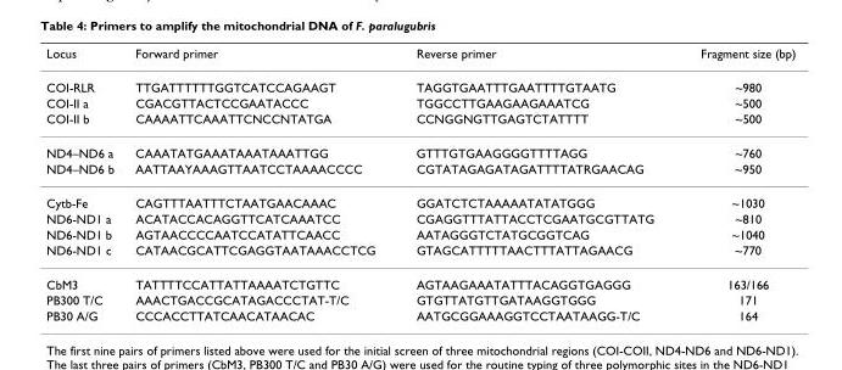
<table><thead><tr><td>Locus</td><td>Forward primer</td><td>Reverse primer</td><td>Fragment size (bp)</td></tr></thead><tbody><tr><td>COI-RLR</td><td>TTGATTTTTTGGTCATCCAGAAGT</td><td>TAGGTGAATTTGAATTTTGTAATG</td><td>~980</td></tr><tr><td>COI-II a</td><td>CGACGTTACTCCGAATACCC</td><td>TGGCCTTGAAGAAGAAATCG</td><td>~500</td></tr><tr><td>COI-II b</td><td>CAAAATTCAAATTCNCCNTATGA</td><td>CCNGGNGTTGAGTCTATTTT</td><td>~500</td></tr><tr><td>ND4–ND6 a</td><td>CAAATATGAAATAAATAAATTGG</td><td>GTTTGTGAAGGGGTTTTAGG</td><td>~760</td></tr><tr><td>ND4–ND6 b</td><td>AATTAAYAAAGTTAATCCTAAAACCCC</td><td>CGTATAGAGATAGATTTTATRGAACAG</td><td>~950</td></tr><tr><td>Cytb-Fe</td><td>CAGTTTAATTTCTAATGAACAAAC</td><td>GGATCTCTAAAAATATATGGG</td><td>~1030</td></tr><tr><td>ND6-ND1 a</td><td>ACATACCACAGGTTCATCAAATCC</td><td>CGAGGTTTATTACCTCGAATGCGTTATG</td><td>~810</td></tr><tr><td>ND6-ND1 b</td><td>AGTAACCCCAATCCATATTCAACC</td><td>AATAGGGTCTATGCGGTCAG</td><td>~1040</td></tr><tr><td>ND6-ND1 c</td><td>CATAACGCATTCGAGGTAATAAACCTCG</td><td>GTAGCATTTTTAACTTTATTAGAACG</td><td>~770</td></tr><tr><td>CbM3</td><td>TATTTTCCATTATTAAAATCTGTTC</td><td>AGTAAGAAATATTTACAGGTGAGGG</td><td>163/166</td></tr><tr><td>PB300 T/C</td><td>AAACTGACCGCATAGACCCTAT-T/C</td><td>GTGTTATGTTGATAAGGTGGG</td><td>171</td></tr><tr><td>PB30 A/G</td><td>CCCACCTTATCAACATAACAC</td><td>AATGCGGAAAGGTCCTAATAAGG-T/C</td><td>164</td></tr></tbody></table>